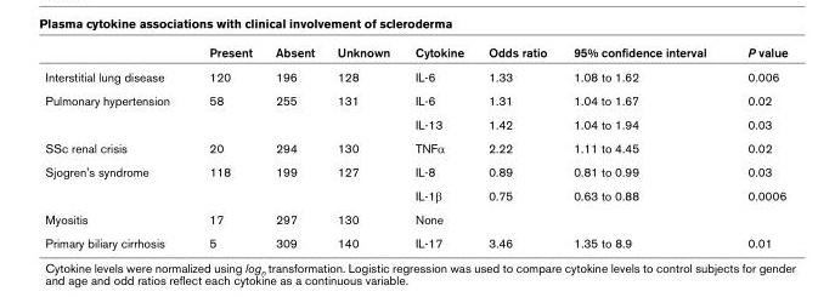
<table><thead><tr><td></td><td>Present</td><td>Absent</td><td>Unknown</td><td>Cytokine</td><td>Odds ratio</td><td>95% confidence interval</td><td>P value</td></tr></thead><tbody><tr><td>Interstitial lung disease</td><td>120</td><td>196</td><td>128</td><td>IL-6</td><td>1.33</td><td>1.08 to 1.62</td><td>0.006</td></tr><tr><td rowspan="2">Pulmonary hypertension</td><td>58</td><td>255</td><td>131</td><td>IL-6</td><td>1.31</td><td>1.04 to 1.67</td><td>0.02</td></tr><tr><td></td><td></td><td></td><td>IL-13</td><td>1.42</td><td>1.04 to 1.94</td><td>0.03</td></tr><tr><td>SSc renal crisis</td><td>20</td><td>294</td><td>130</td><td>TNFα</td><td>2.22</td><td>1.11 to 4.45</td><td>0.02</td></tr><tr><td rowspan="2">Sjogren&#x27;s syndrome</td><td>118</td><td>199</td><td>127</td><td>IL-8</td><td>0.89</td><td>0.81 to 0.99</td><td>0.03</td></tr><tr><td></td><td></td><td></td><td>IL-1β</td><td>0.75</td><td>0.63 to 0.88</td><td>0.0006</td></tr><tr><td>Myositis</td><td>17</td><td>297</td><td>130</td><td>None</td><td></td><td></td><td></td></tr><tr><td>Primary biliary cirrhosis</td><td>5</td><td>309</td><td>140</td><td>IL-17</td><td>3.46</td><td>1.35 to 8.9</td><td>0.01</td></tr></tbody></table>